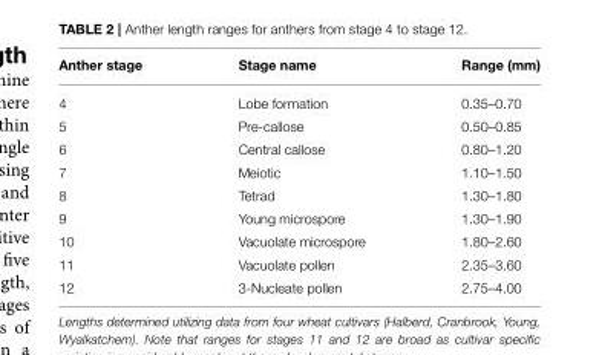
<table><thead><tr><td>Anther stage</td><td>Stage name</td><td>Range (mm)</td></tr></thead><tbody><tr><td>4</td><td>Lobe formation</td><td>0.35–0.70</td></tr><tr><td>5</td><td>Pre-callose</td><td>0.50–0.85</td></tr><tr><td>6</td><td>Central callose</td><td>0.80–1.20</td></tr><tr><td>7</td><td>Meiotic</td><td>1.10–1.50</td></tr><tr><td>8</td><td>Tetrad</td><td>1.30–1.80</td></tr><tr><td>9</td><td>Young microspore</td><td>1.30–1.90</td></tr><tr><td>10</td><td>Vacuolate microspore</td><td>1.80–2.60</td></tr><tr><td>11</td><td>Vacuolate pollen</td><td>2.35–3.60</td></tr><tr><td>12</td><td>3-Nucleate pollen</td><td>2.75–4.00</td></tr></tbody></table>